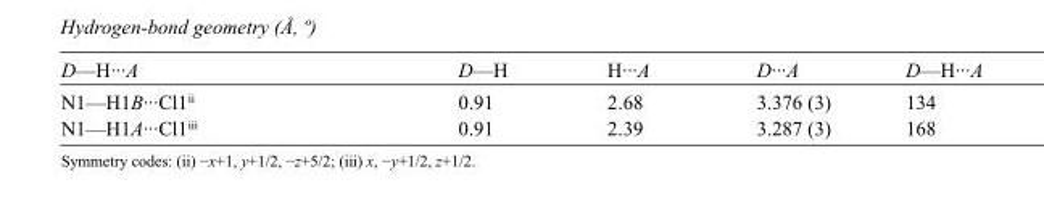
<table><tbody><tr><td>D—H···A</td><td>D—H</td><td>H···A</td><td>D···A</td><td>D—H···A</td></tr><tr><td>N1—H1B···Cl1<sup>ii</sup></td><td>0.91</td><td>2.68</td><td>3.376 (3)</td><td>134</td></tr><tr><td>N1—H1A···Cl1<sup>iii</sup></td><td>0.91</td><td>2.39</td><td>3.287 (3)</td><td>168</td></tr></tbody></table>